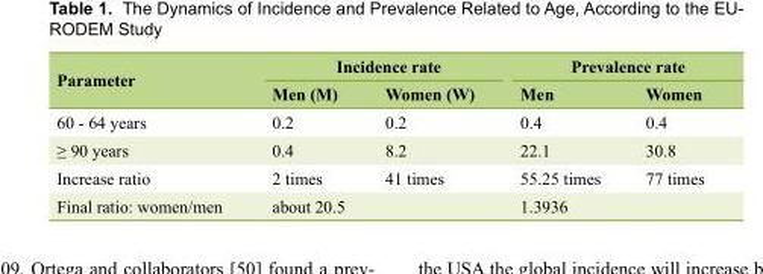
<table><thead><tr><td rowspan="2">Parameter</td><td colspan="2">Incidence rate</td><td colspan="2">Prevalence rate</td></tr><tr><td>Men (M)</td><td>Women (W)</td><td>Men</td><td>Women</td></tr></thead><tbody><tr><td>60 - 64 years</td><td>0.2</td><td>0.2</td><td>0.4</td><td>0.4</td></tr><tr><td>≥ 90 years</td><td>0.4</td><td>8.2</td><td>22.1</td><td>30.8</td></tr><tr><td>Increase ratio</td><td>2 times</td><td>41 times</td><td>55.25 times</td><td>77 times</td></tr><tr><td>Final ratio: women/men</td><td colspan="2">about 20.5</td><td colspan="2">1.3936</td></tr></tbody></table>